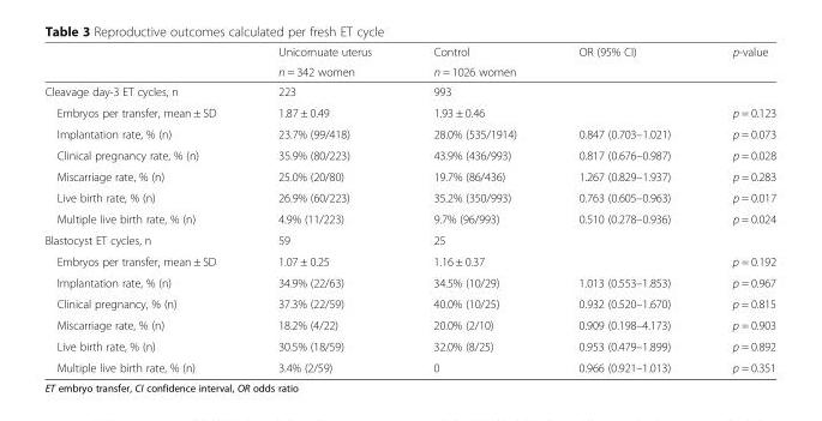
<table><thead><tr><td rowspan="2"></td><td rowspan="2">Unicornuate uterus n = 342 women</td><td rowspan="2">Control n = 1026 women</td><td rowspan="2">OR (95% CI)</td><td rowspan="2">p-value</td></tr><tr></tr></thead><tbody><tr><td>Cleavage day-3 ET cycles, n</td><td>223</td><td>993</td><td></td><td></td></tr><tr><td>Embryos per transfer, mean ± SD</td><td>1.87 ± 0.49</td><td>1.93 ± 0.46</td><td></td><td>p = 0.123</td></tr><tr><td>Implantation rate, % (n)</td><td>23.7% (99/418)</td><td>28.0% (535/1914)</td><td>0.847 (0.703–1.021)</td><td>p = 0.073</td></tr><tr><td>Clinical pregnancy rate, % (n)</td><td>35.9% (80/223)</td><td>43.9% (436/993)</td><td>0.817 (0.676–0.987)</td><td>p = 0.028</td></tr><tr><td>Miscarriage rate, % (n)</td><td>25.0% (20/80)</td><td>19.7% (86/436)</td><td>1.267 (0.829–1.937)</td><td>p = 0.283</td></tr><tr><td>Live birth rate, % (n)</td><td>26.9% (60/223)</td><td>35.2% (350/993)</td><td>0.763 (0.605–0.963)</td><td>p = 0.017</td></tr><tr><td>Multiple live birth rate, % (n)</td><td>4.9% (11/223)</td><td>9.7% (96/993)</td><td>0.510 (0.278–0.936)</td><td>p = 0.024</td></tr><tr><td>Blastocyst ET cycles, n</td><td>59</td><td>25</td><td></td><td></td></tr><tr><td>Embryos per transfer, mean ± SD</td><td>1.07 ± 0.25</td><td>1.16 ± 0.37</td><td></td><td>p = 0.192</td></tr><tr><td>Implantation rate, % (n)</td><td>34.9% (22/63)</td><td>34.5% (10/29)</td><td>1.013 (0.553–1.853)</td><td>p = 0.967</td></tr><tr><td>Clinical pregnancy, % (n)</td><td>37.3% (22/59)</td><td>40.0% (10/25)</td><td>0.932 (0.520–1.670)</td><td>p = 0.815</td></tr><tr><td>Miscarriage rate, % (n)</td><td>18.2% (4/22)</td><td>20.0% (2/10)</td><td>0.909 (0.198–4.173)</td><td>p = 0.903</td></tr><tr><td>Live birth rate, % (n)</td><td>30.5% (18/59)</td><td>32.0% (8/25)</td><td>0.953 (0.479–1.899)</td><td>p = 0.892</td></tr><tr><td>Multiple live birth rate, % (n)</td><td>3.4% (2/59)</td><td>0</td><td>0.966 (0.921–1.013)</td><td>p = 0.351</td></tr></tbody></table>